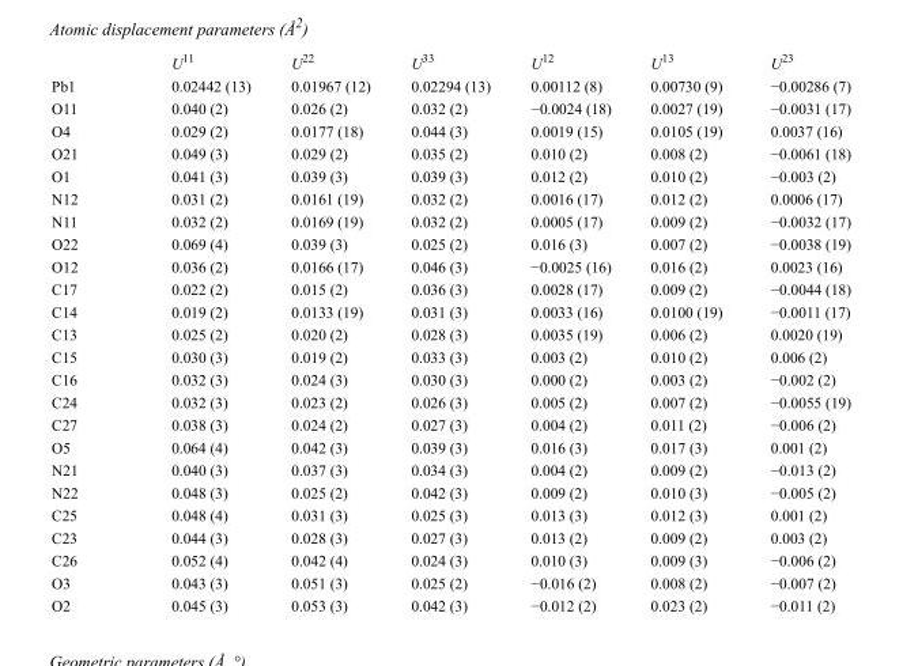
<table><thead><tr><td></td><td>U<sup>11</sup></td><td>U<sup>22</sup></td><td>U<sup>33</sup></td><td>U<sup>12</sup></td><td>U<sup>13</sup></td><td>U<sup>23</sup></td></tr></thead><tbody><tr><td>Pb1</td><td>0.02442 (13)</td><td>0.01967 (12)</td><td>0.02294 (13)</td><td>0.00112 (8)</td><td>0.00730 (9)</td><td>−0.00286 (7)</td></tr><tr><td>O11</td><td>0.040 (2)</td><td>0.026 (2)</td><td>0.032 (2)</td><td>−0.0024 (18)</td><td>0.0027 (19)</td><td>−0.0031 (17)</td></tr><tr><td>O4</td><td>0.029 (2)</td><td>0.0177 (18)</td><td>0.044 (3)</td><td>0.0019 (15)</td><td>0.0105 (19)</td><td>0.0037 (16)</td></tr><tr><td>O21</td><td>0.049 (3)</td><td>0.029 (2)</td><td>0.035 (2)</td><td>0.010 (2)</td><td>0.008 (2)</td><td>−0.0061 (18)</td></tr><tr><td>O1</td><td>0.041 (3)</td><td>0.039 (3)</td><td>0.039 (3)</td><td>0.012 (2)</td><td>0.010 (2)</td><td>−0.003 (2)</td></tr><tr><td>N12</td><td>0.031 (2)</td><td>0.0161 (19)</td><td>0.032 (2)</td><td>0.0016 (17)</td><td>0.012 (2)</td><td>0.0006 (17)</td></tr><tr><td>N11</td><td>0.032 (2)</td><td>0.0169 (19)</td><td>0.032 (2)</td><td>0.0005 (17)</td><td>0.009 (2)</td><td>−0.0032 (17)</td></tr><tr><td>O22</td><td>0.069 (4)</td><td>0.039 (3)</td><td>0.025 (2)</td><td>0.016 (3)</td><td>0.007 (2)</td><td>−0.0038 (19)</td></tr><tr><td>O12</td><td>0.036 (2)</td><td>0.0166 (17)</td><td>0.046 (3)</td><td>−0.0025 (16)</td><td>0.016 (2)</td><td>0.0023 (16)</td></tr><tr><td>C17</td><td>0.022 (2)</td><td>0.015 (2)</td><td>0.036 (3)</td><td>0.0028 (17)</td><td>0.009 (2)</td><td>−0.0044 (18)</td></tr><tr><td>C14</td><td>0.019 (2)</td><td>0.0133 (19)</td><td>0.031 (3)</td><td>0.0033 (16)</td><td>0.0100 (19)</td><td>−0.0011 (17)</td></tr><tr><td>C13</td><td>0.025 (2)</td><td>0.020 (2)</td><td>0.028 (3)</td><td>0.0035 (19)</td><td>0.006 (2)</td><td>0.0020 (19)</td></tr><tr><td>C15</td><td>0.030 (3)</td><td>0.019 (2)</td><td>0.033 (3)</td><td>0.003 (2)</td><td>0.010 (2)</td><td>0.006 (2)</td></tr><tr><td>C16</td><td>0.032 (3)</td><td>0.024 (3)</td><td>0.030 (3)</td><td>0.000 (2)</td><td>0.003 (2)</td><td>−0.002 (2)</td></tr><tr><td>C24</td><td>0.032 (3)</td><td>0.023 (2)</td><td>0.026 (3)</td><td>0.005 (2)</td><td>0.007 (2)</td><td>−0.0055 (19)</td></tr><tr><td>C27</td><td>0.038 (3)</td><td>0.024 (2)</td><td>0.027 (3)</td><td>0.004 (2)</td><td>0.011 (2)</td><td>−0.006 (2)</td></tr><tr><td>O5</td><td>0.064 (4)</td><td>0.042 (3)</td><td>0.039 (3)</td><td>0.016 (3)</td><td>0.017 (3)</td><td>0.001 (2)</td></tr><tr><td>N21</td><td>0.040 (3)</td><td>0.037 (3)</td><td>0.034 (3)</td><td>0.004 (2)</td><td>0.009 (2)</td><td>−0.013 (2)</td></tr><tr><td>N22</td><td>0.048 (3)</td><td>0.025 (2)</td><td>0.042 (3)</td><td>0.009 (2)</td><td>0.010 (3)</td><td>−0.005 (2)</td></tr><tr><td>C25</td><td>0.048 (4)</td><td>0.031 (3)</td><td>0.025 (3)</td><td>0.013 (3)</td><td>0.012 (3)</td><td>0.001 (2)</td></tr><tr><td>C23</td><td>0.044 (3)</td><td>0.028 (3)</td><td>0.027 (3)</td><td>0.013 (2)</td><td>0.009 (2)</td><td>0.003 (2)</td></tr><tr><td>C26</td><td>0.052 (4)</td><td>0.042 (4)</td><td>0.024 (3)</td><td>0.010 (3)</td><td>0.009 (3)</td><td>−0.006 (2)</td></tr><tr><td>O3</td><td>0.043 (3)</td><td>0.051 (3)</td><td>0.025 (2)</td><td>−0.016 (2)</td><td>0.008 (2)</td><td>−0.007 (2)</td></tr><tr><td>O2</td><td>0.045 (3)</td><td>0.053 (3)</td><td>0.042 (3)</td><td>−0.012 (2)</td><td>0.023 (2)</td><td>−0.011 (2)</td></tr></tbody></table>